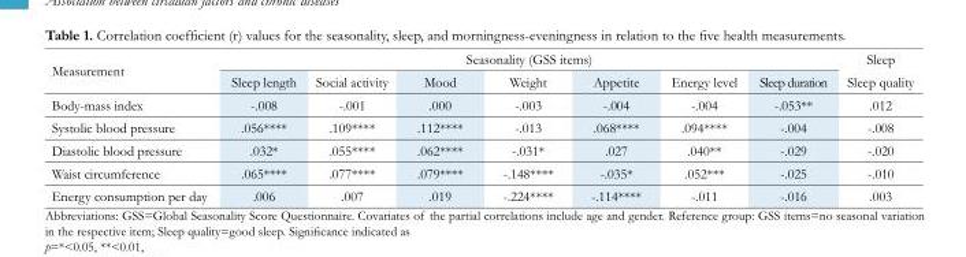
<table><thead><tr><td rowspan="2">Measurement</td><td colspan="7">Seasonality (GSS items)</td><td rowspan="2">Sleep Sleep quality</td></tr><tr><td>Sleep length</td><td>Social activity</td><td>Mood</td><td>Weight</td><td>Appetite</td><td>Energy level</td><td>Sleep duration</td></tr></thead><tbody><tr><td>Body-mass index</td><td>-.008</td><td>-.001</td><td>.000</td><td>-.003</td><td>-.004</td><td>-.004</td><td>-.053**</td><td>.012</td></tr><tr><td>Systolic blood pressure</td><td>.056****</td><td>.109****</td><td>.112****</td><td>-.013</td><td>.068****</td><td>.094****</td><td>-.004</td><td>-.008</td></tr><tr><td>Diastolic blood pressure</td><td>.032*</td><td>.055****</td><td>.062****</td><td>-.031*</td><td>.027</td><td>.040**</td><td>-.029</td><td>-.020</td></tr><tr><td>Waist circumference</td><td>.065****</td><td>.077****</td><td>.079****</td><td>-.148****</td><td>-.035*</td><td>.052***</td><td>-.025</td><td>-.010</td></tr><tr><td>Energy consumption per day</td><td>.006</td><td>.007</td><td>.019</td><td>-.224****</td><td>-.114****</td><td>-.011</td><td>-.016</td><td>.003</td></tr></tbody></table>